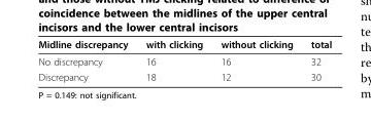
<table><thead><tr><td>Midline discrepancy</td><td>with clicking</td><td>without clicking</td><td>total</td></tr></thead><tbody><tr><td>No discrepancy</td><td>16</td><td>16</td><td>32</td></tr><tr><td>Discrepancy</td><td>18</td><td>12</td><td>30</td></tr></tbody></table>